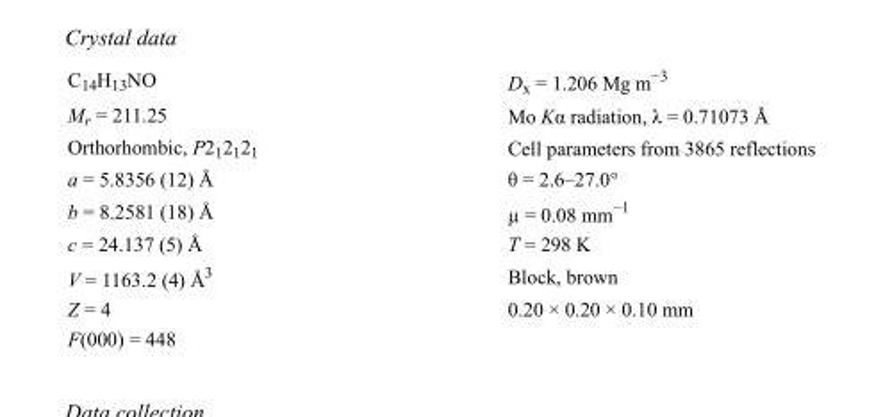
<table><tbody><tr><td>C<sub>14</sub>H<sub>13</sub>NO</td><td>D<sub>x</sub> = 1.206 Mg m<sup>−3</sup></td></tr><tr><td>M<sub>r</sub> = 211.25</td><td>Mo Kα radiation, λ = 0.71073 Å</td></tr><tr><td>Orthorhombic, P2<sub>1</sub>2<sub>1</sub>2<sub>1</sub></td><td>Cell parameters from 3865 reflections</td></tr><tr><td>a = 5.8356 (12) Å</td><td>θ = 2.6–27.0°</td></tr><tr><td>b = 8.2581 (18) Å</td><td>µ = 0.08 mm<sup>−1</sup></td></tr><tr><td>c = 24.137 (5) Å</td><td>T = 298 K</td></tr><tr><td>V = 1163.2 (4) Å<sup>3</sup></td><td>Block, brown</td></tr><tr><td>Z = 4</td><td>0.20 × 0.20 × 0.10 mm</td></tr><tr><td>F(000) = 448</td><td></td></tr></tbody></table>